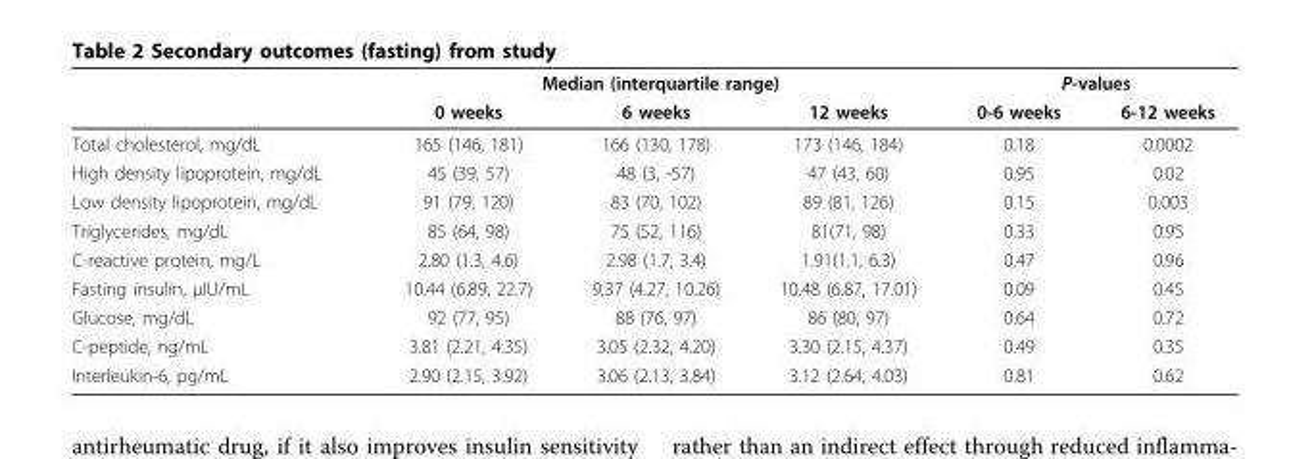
<table><thead><tr><td rowspan="2"></td><td colspan="3">Median (interquartile range)</td><td colspan="2">P-values</td></tr><tr><td>0 weeks</td><td>6 weeks</td><td>12 weeks</td><td>0-6 weeks</td><td>6-12 weeks</td></tr></thead><tbody><tr><td>Total cholesterol, mg/dL</td><td>165 (146, 181)</td><td>166 (130, 178)</td><td>173 (146, 184)</td><td>0.18</td><td>0.0002</td></tr><tr><td>High density lipoprotein, mg/dL</td><td>45 (39, 57)</td><td>48 (3, -57)</td><td>47 (43, 60)</td><td>0.95</td><td>0.02</td></tr><tr><td>Low density lipoprotein, mg/dL</td><td>91 (79, 120)</td><td>83 (70, 102)</td><td>89 (81, 126)</td><td>0.15</td><td>0.003</td></tr><tr><td>Triglycerides, mg/dL</td><td>85 (64, 98)</td><td>75 (52, 116)</td><td>81(71, 98)</td><td>0.33</td><td>0.95</td></tr><tr><td>C-reactive protein, mg/L</td><td>2.80 (1.3, 4.6)</td><td>2.98 (1.7, 3.4)</td><td>1.91(1.1, 6.3)</td><td>0.47</td><td>0.96</td></tr><tr><td>Fasting insulin, μIU/mL</td><td>10.44 (6.89, 22.7)</td><td>9.37 (4.27, 10.26)</td><td>10.48 (6.87, 17.01)</td><td>0.09</td><td>0.45</td></tr><tr><td>Glucose, mg/dL</td><td>92 (77, 95)</td><td>88 (76, 97)</td><td>86 (80, 97)</td><td>0.64</td><td>0.72</td></tr><tr><td>C-peptide, ng/mL</td><td>3.81 (2.21, 4.35)</td><td>3.05 (2.32, 4.20)</td><td>3.30 (2.15, 4.37)</td><td>0.49</td><td>0.35</td></tr><tr><td>Interleukin-6, pg/mL</td><td>2.90 (2.15, 3.92)</td><td>3.06 (2.13, 3.84)</td><td>3.12 (2.64, 4.03)</td><td>0.81</td><td>0.62</td></tr></tbody></table>